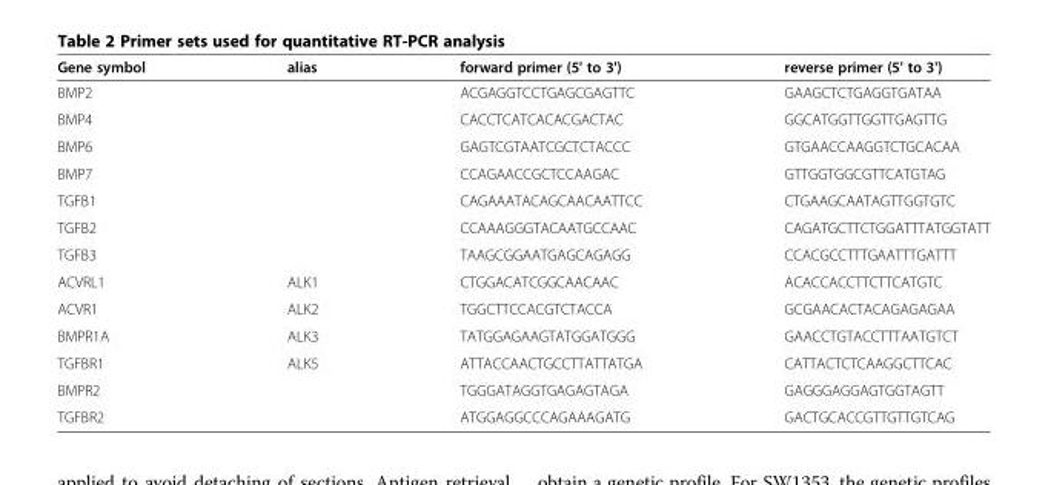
<table><thead><tr><td>Gene symbol</td><td>alias</td><td>forward primer (5&#x27; to 3&#x27;)</td><td>reverse primer (5&#x27; to 3&#x27;)</td></tr></thead><tbody><tr><td>BMP2</td><td></td><td>ACGAGGTCCTGAGCGAGTTC</td><td>GAAGCTCTGAGGTGATAA</td></tr><tr><td>BMP4</td><td></td><td>CACCTCATCACACGACTAC</td><td>GGCATGGTTGGTTGAGTTG</td></tr><tr><td>BMP6</td><td></td><td>GAGTCGTAATCGCTCTACCC</td><td>GTGAACCAAGGTCTGCACAA</td></tr><tr><td>BMP7</td><td></td><td>CCAGAACCGCTCCAAGAC</td><td>GTTGGTGGCGTTCATGTAG</td></tr><tr><td>TGFB1</td><td></td><td>CAGAAATACAGCAACAATTCC</td><td>CTGAAGCAATAGTTGGTGTC</td></tr><tr><td>TGFB2</td><td></td><td>CCAAAGGGTACAATGCCAAC</td><td>CAGATGCTTCTGGATTTATGGTATT</td></tr><tr><td>TGFB3</td><td></td><td>TAAGCGGAATGAGCAGAGG</td><td>CCACGCCTTTGAATTTGATTT</td></tr><tr><td>ACVRL1</td><td>ALK1</td><td>CTGGACATCGGCAACAAC</td><td>ACACCACCTTCTTCATGTC</td></tr><tr><td>ACVR1</td><td>ALK2</td><td>TGGCTTCCACGTCTACCA</td><td>GCGAACACTACAGAGAGAA</td></tr><tr><td>BMPR1A</td><td>ALK3</td><td>TATGGAGAAGTATGGATGGG</td><td>GAACCTGTACCTTTAATGTCT</td></tr><tr><td>TGFBR1</td><td>ALK5</td><td>ATTACCAACTGCCTTATTATGA</td><td>CATTACTCTCAAGGCTTCAC</td></tr><tr><td>BMPR2</td><td></td><td>TGGGATAGGTGAGAGTAGA</td><td>GAGGGAGGAGTGGTAGTT</td></tr><tr><td>TGFBR2</td><td></td><td>ATGGAGGCCCAGAAAGATG</td><td>GACTGCACCGTTGTTGTCAG</td></tr></tbody></table>